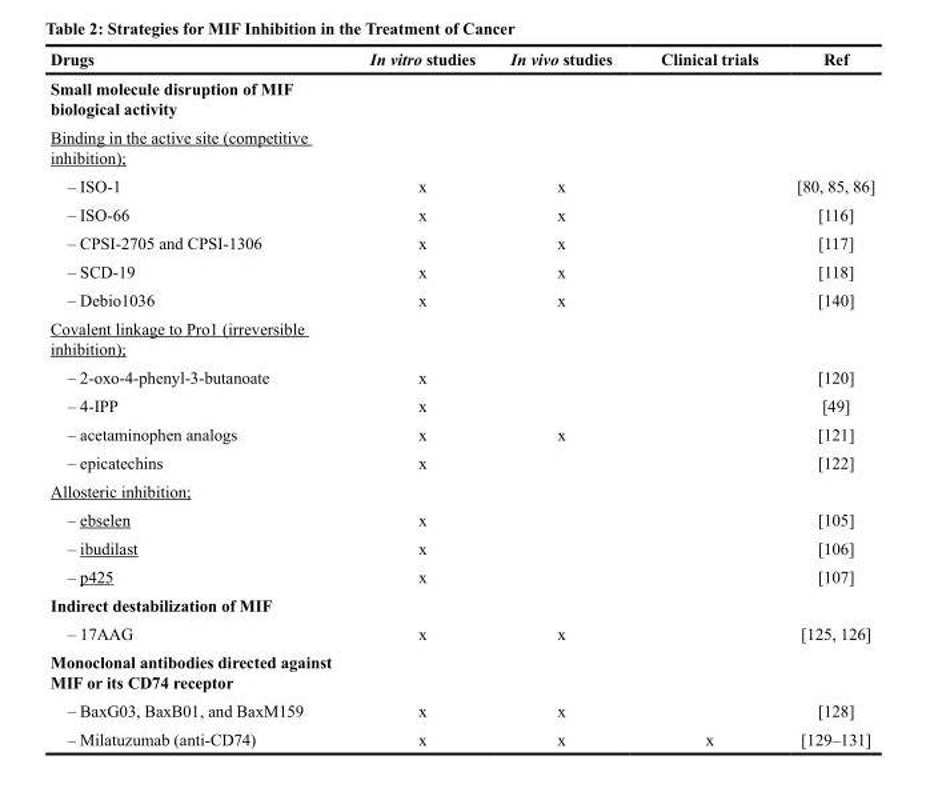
<table><thead><tr><td>Drugs</td><td>In vitro studies</td><td>In vivo studies</td><td>Clinical trials</td><td>Ref</td></tr></thead><tbody><tr><td colspan="5">Small molecule disruption of MIF biological activity</td></tr><tr><td colspan="5">Binding in the active site (competitive inhibition);</td></tr><tr><td>– ISO-1</td><td>x</td><td>x</td><td></td><td>[80, 85, 86]</td></tr><tr><td>– ISO-66</td><td>x</td><td>x</td><td></td><td>[116]</td></tr><tr><td>– CPSI-2705 and CPSI-1306</td><td>x</td><td>x</td><td></td><td>[117]</td></tr><tr><td>– SCD-19</td><td>x</td><td>x</td><td></td><td>[118]</td></tr><tr><td>– Debio1036</td><td>x</td><td>x</td><td></td><td>[140]</td></tr><tr><td colspan="5">Covalent linkage to Pro1 (irreversible inhibition);</td></tr><tr><td>– 2-oxo-4-phenyl-3-butanoate</td><td>x</td><td></td><td></td><td>[120]</td></tr><tr><td>– 4-IPP</td><td>x</td><td></td><td></td><td>[49]</td></tr><tr><td>– acetaminophen analogs</td><td>x</td><td>x</td><td></td><td>[121]</td></tr><tr><td>– epicatechins</td><td>x</td><td></td><td></td><td>[122]</td></tr><tr><td colspan="5">Allosteric inhibition;</td></tr><tr><td>– ebselen</td><td>x</td><td></td><td></td><td>[105]</td></tr><tr><td>– ibudilast</td><td>x</td><td></td><td></td><td>[106]</td></tr><tr><td>– p425</td><td>x</td><td></td><td></td><td>[107]</td></tr><tr><td colspan="5">Indirect destabilization of MIF</td></tr><tr><td>– 17AAG</td><td>x</td><td>x</td><td></td><td>[125, 126]</td></tr><tr><td colspan="5">Monoclonal antibodies directed against MIF or its CD74 receptor</td></tr><tr><td>– BaxG03, BaxB01, and BaxM159</td><td>x</td><td>x</td><td></td><td>[128]</td></tr><tr><td>– Milatuzumab (anti-CD74)</td><td>x</td><td>x</td><td>x</td><td>[129–131]</td></tr></tbody></table>